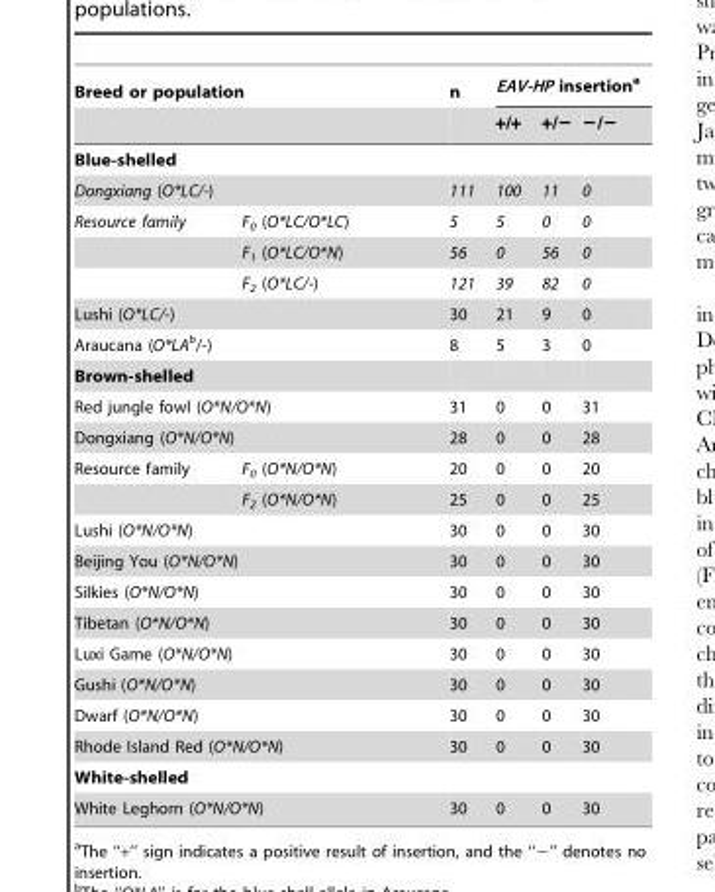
<table><thead><tr><td colspan="2">Breed or population</td><td rowspan="2">n</td><td colspan="3">EAV-HP insertion<sup>a</sup></td></tr><tr><td></td><td></td><td>+/+</td><td>+/−</td><td>−/−</td></tr></thead><tbody><tr><td colspan="6">Blue-shelled</td></tr><tr><td colspan="2">Dongxiang (O*LC/-)</td><td>111</td><td>100</td><td>11</td><td>0</td></tr><tr><td rowspan="3">Resource family</td><td>F<sub>0</sub> (O*LC/O*LC)</td><td>5</td><td>5</td><td>0</td><td>0</td></tr><tr><td>F<sub>1</sub> (O*LC/O*N)</td><td>56</td><td>0</td><td>56</td><td>0</td></tr><tr><td>F<sub>2</sub> (O*LC/-)</td><td>121</td><td>39</td><td>82</td><td>0</td></tr><tr><td colspan="2">Lushi (O*LC/-)</td><td>30</td><td>21</td><td>9</td><td>0</td></tr><tr><td colspan="2">Araucana (O*LAb/-)</td><td>8</td><td>5</td><td>3</td><td>0</td></tr><tr><td colspan="6">Brown-shelled</td></tr><tr><td colspan="2">Red jungle fowl (O*N/O*N)</td><td>31</td><td>0</td><td>0</td><td>31</td></tr><tr><td colspan="2">Dongxiang (O*N/O*N)</td><td>28</td><td>0</td><td>0</td><td>28</td></tr><tr><td rowspan="2">Resource family</td><td>F<sub>0</sub> (O*N/O*N)</td><td>20</td><td>0</td><td>0</td><td>20</td></tr><tr><td>F<sub>2</sub> (O*N/O*N)</td><td>25</td><td>0</td><td>0</td><td>25</td></tr><tr><td colspan="2">Lushi (O*N/O*N)</td><td>30</td><td>0</td><td>0</td><td>30</td></tr><tr><td colspan="2">Beijing You (O*N/O*N)</td><td>30</td><td>0</td><td>0</td><td>30</td></tr><tr><td colspan="2">Silkies (O*N/O*N)</td><td>30</td><td>0</td><td>0</td><td>30</td></tr><tr><td colspan="2">Tibetan (O*N/O*N)</td><td>30</td><td>0</td><td>0</td><td>30</td></tr><tr><td colspan="2">Luxi Game (O*N/O*N)</td><td>30</td><td>0</td><td>0</td><td>30</td></tr><tr><td colspan="2">Gushi (O*N/O*N)</td><td>30</td><td>0</td><td>0</td><td>30</td></tr><tr><td colspan="2">Dwarf (O*N/O*N)</td><td>30</td><td>0</td><td>0</td><td>30</td></tr><tr><td colspan="2">Rhode Island Red (O*N/O*N)</td><td>30</td><td>0</td><td>0</td><td>30</td></tr><tr><td colspan="6">White-shelled</td></tr><tr><td colspan="2">White Leghorn (O*N/O*N)</td><td>30</td><td>0</td><td>0</td><td>30</td></tr></tbody></table>